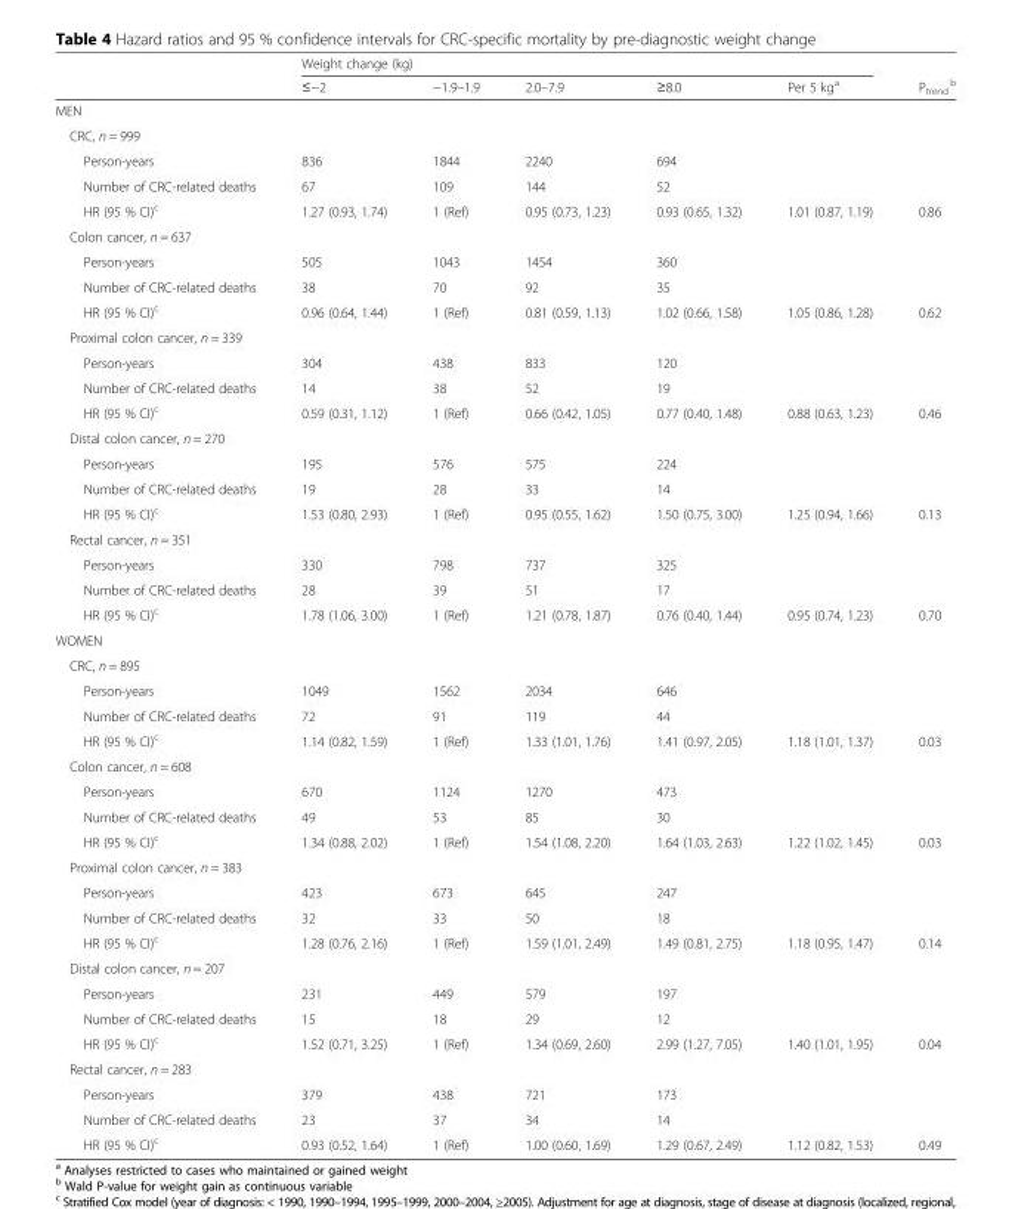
<table><thead><tr><td rowspan="2"></td><td colspan="5">Weight change (kg)</td><td rowspan="2">P<sub>trend</sub> <sup>b</sup></td></tr><tr><td>≤−2</td><td>−1.9–1.9</td><td>2.0–7.9</td><td>≥8.0</td><td>Per 5 kg<sup>a</sup></td></tr></thead><tbody><tr><td colspan="7">MEN</td></tr><tr><td colspan="7">CRC, n = 999</td></tr><tr><td>Person-years</td><td>836</td><td>1844</td><td>2240</td><td>694</td><td></td><td></td></tr><tr><td>Number of CRC-related deaths</td><td>67</td><td>109</td><td>144</td><td>52</td><td></td><td></td></tr><tr><td>HR (95 % CI)<sup>c</sup></td><td>1.27 (0.93, 1.74)</td><td>1 (Ref)</td><td>0.95 (0.73, 1.23)</td><td>0.93 (0.65, 1.32)</td><td>1.01 (0.87, 1.19)</td><td>0.86</td></tr><tr><td colspan="7">Colon cancer, n = 637</td></tr><tr><td>Person-years</td><td>505</td><td>1043</td><td>1454</td><td>360</td><td></td><td></td></tr><tr><td>Number of CRC-related deaths</td><td>38</td><td>70</td><td>92</td><td>35</td><td></td><td></td></tr><tr><td>HR (95 % CI)<sup>c</sup></td><td>0.96 (0.64, 1.44)</td><td>1 (Ref)</td><td>0.81 (0.59, 1.13)</td><td>1.02 (0.66, 1.58)</td><td>1.05 (0.86, 1.28)</td><td>0.62</td></tr><tr><td colspan="7">Proximal colon cancer, n = 339</td></tr><tr><td>Person-years</td><td>304</td><td>438</td><td>833</td><td>120</td><td></td><td></td></tr><tr><td>Number of CRC-related deaths</td><td>14</td><td>38</td><td>52</td><td>19</td><td></td><td></td></tr><tr><td>HR (95 % CI)<sup>c</sup></td><td>0.59 (0.31, 1.12)</td><td>1 (Ref)</td><td>0.66 (0.42, 1.05)</td><td>0.77 (0.40, 1.48)</td><td>0.88 (0.63, 1.23)</td><td>0.46</td></tr><tr><td colspan="7">Distal colon cancer, n = 270</td></tr><tr><td>Person-years</td><td>195</td><td>576</td><td>575</td><td>224</td><td></td><td></td></tr><tr><td>Number of CRC-related deaths</td><td>19</td><td>28</td><td>33</td><td>14</td><td></td><td></td></tr><tr><td>HR (95 % CI)<sup>c</sup></td><td>1.53 (0.80, 2.93)</td><td>1 (Ref)</td><td>0.95 (0.55, 1.62)</td><td>1.50 (0.75, 3.00)</td><td>1.25 (0.94, 1.66)</td><td>0.13</td></tr><tr><td colspan="7">Rectal cancer, n = 351</td></tr><tr><td>Person-years</td><td>330</td><td>798</td><td>737</td><td>325</td><td></td><td></td></tr><tr><td>Number of CRC-related deaths</td><td>28</td><td>39</td><td>51</td><td>17</td><td></td><td></td></tr><tr><td>HR (95 % CI)<sup>c</sup></td><td>1.78 (1.06, 3.00)</td><td>1 (Ref)</td><td>1.21 (0.78, 1.87)</td><td>0.76 (0.40, 1.44)</td><td>0.95 (0.74, 1.23)</td><td>0.70</td></tr><tr><td colspan="7">WOMEN</td></tr><tr><td colspan="7">CRC, n = 895</td></tr><tr><td>Person-years</td><td>1049</td><td>1562</td><td>2034</td><td>646</td><td></td><td></td></tr><tr><td>Number of CRC-related deaths</td><td>72</td><td>91</td><td>119</td><td>44</td><td></td><td></td></tr><tr><td>HR (95 % CI)<sup>c</sup></td><td>1.14 (0.82, 1.59)</td><td>1 (Ref)</td><td>1.33 (1.01, 1.76)</td><td>1.41 (0.97, 2.05)</td><td>1.18 (1.01, 1.37)</td><td>0.03</td></tr><tr><td colspan="7">Colon cancer, n = 608</td></tr><tr><td>Person-years</td><td>670</td><td>1124</td><td>1270</td><td>473</td><td></td><td></td></tr><tr><td>Number of CRC-related deaths</td><td>49</td><td>53</td><td>85</td><td>30</td><td></td><td></td></tr><tr><td>HR (95 % CI)<sup>c</sup></td><td>1.34 (0.88, 2.02)</td><td>1 (Ref)</td><td>1.54 (1.08, 2.20)</td><td>1.64 (1.03, 2.63)</td><td>1.22 (1.02, 1.45)</td><td>0.03</td></tr><tr><td colspan="7">Proximal colon cancer, n = 383</td></tr><tr><td>Person-years</td><td>423</td><td>673</td><td>645</td><td>247</td><td></td><td></td></tr><tr><td>Number of CRC-related deaths</td><td>32</td><td>33</td><td>50</td><td>18</td><td></td><td></td></tr><tr><td>HR (95 % CI)<sup>c</sup></td><td>1.28 (0.76, 2.16)</td><td>1 (Ref)</td><td>1.59 (1.01, 2.49)</td><td>1.49 (0.81, 2.75)</td><td>1.18 (0.95, 1.47)</td><td>0.14</td></tr><tr><td colspan="7">Distal colon cancer, n = 207</td></tr><tr><td>Person-years</td><td>231</td><td>449</td><td>579</td><td>197</td><td></td><td></td></tr><tr><td>Number of CRC-related deaths</td><td>15</td><td>18</td><td>29</td><td>12</td><td></td><td></td></tr><tr><td>HR (95 % CI)<sup>c</sup></td><td>1.52 (0.71, 3.25)</td><td>1 (Ref)</td><td>1.34 (0.69, 2.60)</td><td>2.99 (1.27, 7.05)</td><td>1.40 (1.01, 1.95)</td><td>0.04</td></tr><tr><td colspan="7">Rectal cancer, n = 283</td></tr><tr><td>Person-years</td><td>379</td><td>438</td><td>721</td><td>173</td><td></td><td></td></tr><tr><td>Number of CRC-related deaths</td><td>23</td><td>37</td><td>34</td><td>14</td><td></td><td></td></tr><tr><td>HR (95 % CI)<sup>c</sup></td><td>0.93 (0.52, 1.64)</td><td>1 (Ref)</td><td>1.00 (0.60, 1.69)</td><td>1.29 (0.67, 2.49)</td><td>1.12 (0.82, 1.53)</td><td>0.49</td></tr></tbody></table>